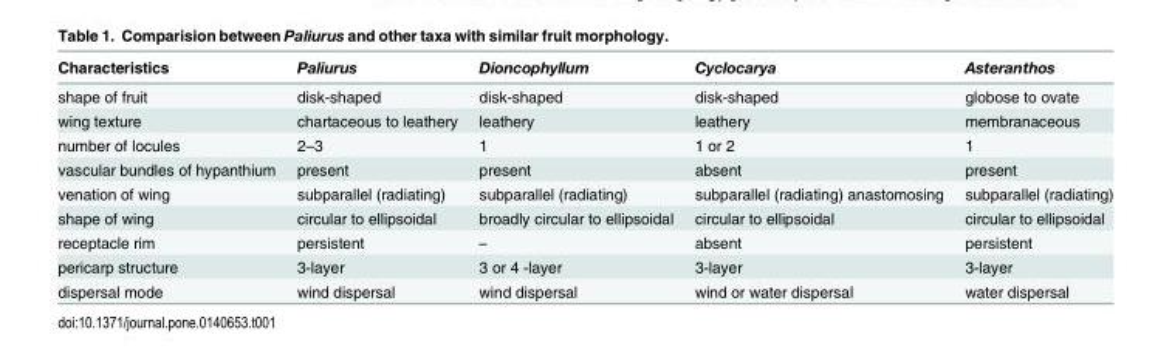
<table><thead><tr><td>Characteristics</td><td>Paliurus</td><td>Dioncophyllum</td><td>Cyclocarya</td><td>Asteranthos</td></tr></thead><tbody><tr><td>shape of fruit</td><td>disk-shaped</td><td>disk-shaped</td><td>disk-shaped</td><td>globose to ovate</td></tr><tr><td>wing texture</td><td>chartaceous to leathery</td><td>leathery</td><td>leathery</td><td>membranaceous</td></tr><tr><td>number of locules</td><td>2–3</td><td>1</td><td>1 or 2</td><td>1</td></tr><tr><td>vascular bundles of hypanthium</td><td>present</td><td>present</td><td>absent</td><td>present</td></tr><tr><td>venation of wing</td><td>subparallel (radiating)</td><td>subparallel (radiating)</td><td>subparallel (radiating) anastomosing</td><td>subparallel (radiating)</td></tr><tr><td>shape of wing</td><td>circular to ellipsoidal</td><td>broadly circular to ellipsoidal</td><td>circular to ellipsoidal</td><td>circular to ellipsoidal</td></tr><tr><td>receptacle rim</td><td>persistent</td><td>–</td><td>absent</td><td>persistent</td></tr><tr><td>pericarp structure</td><td>3-layer</td><td>3 or 4 -layer</td><td>3-layer</td><td>3-layer</td></tr><tr><td>dispersal mode</td><td>wind dispersal</td><td>wind dispersal</td><td>wind or water dispersal</td><td>water dispersal</td></tr></tbody></table>